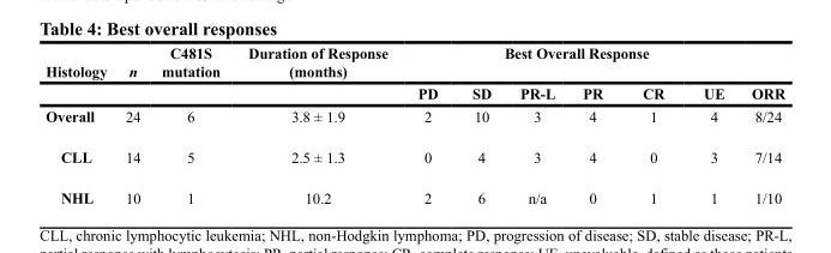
<table><thead><tr><td rowspan="2">Histology</td><td rowspan="2">n</td><td rowspan="2">C481S mutation</td><td rowspan="2">Duration of Response (months)</td><td colspan="7">Best Overall Response</td></tr><tr><td>PD</td><td>SD</td><td>PR-L</td><td>PR</td><td>CR</td><td>UE</td><td>ORR</td></tr></thead><tbody><tr><td>Overall</td><td>24</td><td>6</td><td>3.8 ± 1.9</td><td>2</td><td>10</td><td>3</td><td>4</td><td>1</td><td>4</td><td>8/24</td></tr><tr><td>CLL</td><td>14</td><td>5</td><td>2.5 ± 1.3</td><td>0</td><td>4</td><td>3</td><td>4</td><td>0</td><td>3</td><td>7/14</td></tr><tr><td>NHL</td><td>10</td><td>1</td><td>10.2</td><td>2</td><td>6</td><td>n/a</td><td>0</td><td>1</td><td>1</td><td>1/10</td></tr></tbody></table>